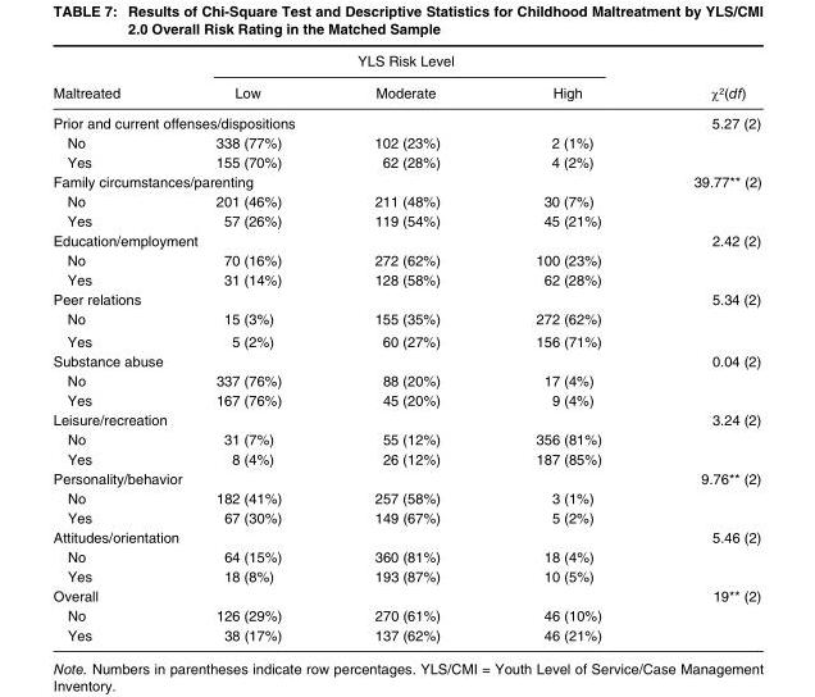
<table><thead><tr><td rowspan="2">Maltreated</td><td colspan="3">YLS Risk Level</td><td rowspan="2">χ<sup>2</sup>(df)</td></tr><tr><td>Low</td><td>Moderate</td><td>High</td></tr></thead><tbody><tr><td colspan="4">Prior and current offenses/dispositions</td><td>5.27 (2)</td></tr><tr><td>No</td><td>338 (77%)</td><td>102 (23%)</td><td>2 (1%)</td><td></td></tr><tr><td>Yes</td><td>155 (70%)</td><td>62 (28%)</td><td>4 (2%)</td><td></td></tr><tr><td colspan="4">Family circumstances/parenting</td><td>39.77** (2)</td></tr><tr><td>No</td><td>201 (46%)</td><td>211 (48%)</td><td>30 (7%)</td><td></td></tr><tr><td>Yes</td><td>57 (26%)</td><td>119 (54%)</td><td>45 (21%)</td><td></td></tr><tr><td colspan="4">Education/employment</td><td>2.42 (2)</td></tr><tr><td>No</td><td>70 (16%)</td><td>272 (62%)</td><td>100 (23%)</td><td></td></tr><tr><td>Yes</td><td>31 (14%)</td><td>128 (58%)</td><td>62 (28%)</td><td></td></tr><tr><td colspan="4">Peer relations</td><td>5.34 (2)</td></tr><tr><td>No</td><td>15 (3%)</td><td>155 (35%)</td><td>272 (62%)</td><td></td></tr><tr><td>Yes</td><td>5 (2%)</td><td>60 (27%)</td><td>156 (71%)</td><td></td></tr><tr><td colspan="4">Substance abuse</td><td>0.04 (2)</td></tr><tr><td>No</td><td>337 (76%)</td><td>88 (20%)</td><td>17 (4%)</td><td></td></tr><tr><td>Yes</td><td>167 (76%)</td><td>45 (20%)</td><td>9 (4%)</td><td></td></tr><tr><td colspan="4">Leisure/recreation</td><td>3.24 (2)</td></tr><tr><td>No</td><td>31 (7%)</td><td>55 (12%)</td><td>356 (81%)</td><td></td></tr><tr><td>Yes</td><td>8 (4%)</td><td>26 (12%)</td><td>187 (85%)</td><td></td></tr><tr><td colspan="4">Personality/behavior</td><td>9.76** (2)</td></tr><tr><td>No</td><td>182 (41%)</td><td>257 (58%)</td><td>3 (1%)</td><td></td></tr><tr><td>Yes</td><td>67 (30%)</td><td>149 (67%)</td><td>5 (2%)</td><td></td></tr><tr><td colspan="4">Attitudes/orientation</td><td>5.46 (2)</td></tr><tr><td>No</td><td>64 (15%)</td><td>360 (81%)</td><td>18 (4%)</td><td></td></tr><tr><td>Yes</td><td>18 (8%)</td><td>193 (87%)</td><td>10 (5%)</td><td></td></tr><tr><td colspan="4">Overall</td><td>19** (2)</td></tr><tr><td>No</td><td>126 (29%)</td><td>270 (61%)</td><td>46 (10%)</td><td></td></tr><tr><td>Yes</td><td>38 (17%)</td><td>137 (62%)</td><td>46 (21%)</td><td></td></tr></tbody></table>